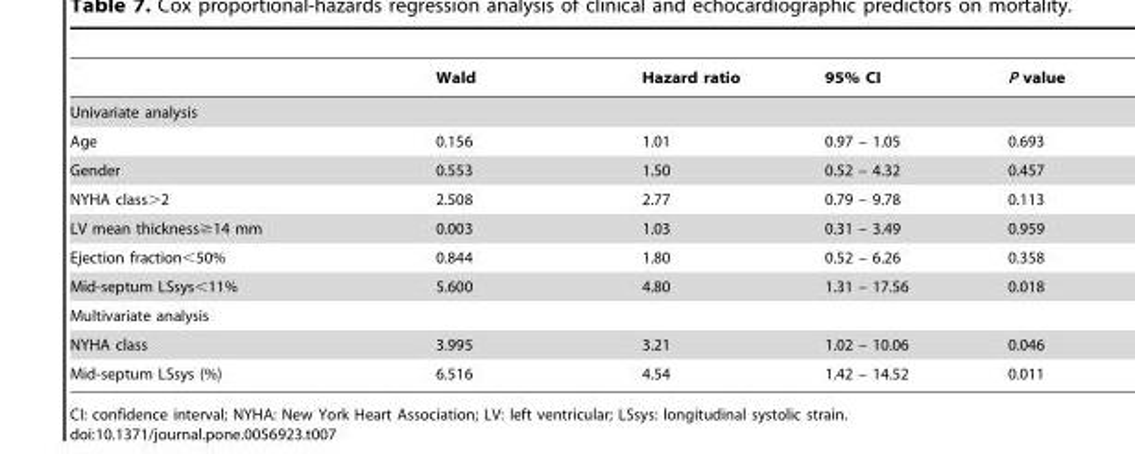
<table><thead><tr><td></td><td>Wald</td><td>Hazard ratio</td><td>95% CI</td><td>P value</td></tr></thead><tbody><tr><td colspan="5">Univariate analysis</td></tr><tr><td>Age</td><td>0.156</td><td>1.01</td><td>0.97 – 1.05</td><td>0.693</td></tr><tr><td>Gender</td><td>0.553</td><td>1.50</td><td>0.52 – 4.32</td><td>0.457</td></tr><tr><td>NYHA class&gt;2</td><td>2.508</td><td>2.77</td><td>0.79 – 9.78</td><td>0.113</td></tr><tr><td>LV mean thickness≥14 mm</td><td>0.003</td><td>1.03</td><td>0.31 – 3.49</td><td>0.959</td></tr><tr><td>Ejection fraction&lt;50%</td><td>0.844</td><td>1.80</td><td>0.52 – 6.26</td><td>0.358</td></tr><tr><td>Mid-septum LSsys&lt;11%</td><td>5.600</td><td>4.80</td><td>1.31 – 17.56</td><td>0.018</td></tr><tr><td colspan="5">Multivariate analysis</td></tr><tr><td>NYHA class</td><td>3.995</td><td>3.21</td><td>1.02 – 10.06</td><td>0.046</td></tr><tr><td>Mid-septum LSsys (%)</td><td>6.516</td><td>4.54</td><td>1.42 – 14.52</td><td>0.011</td></tr></tbody></table>